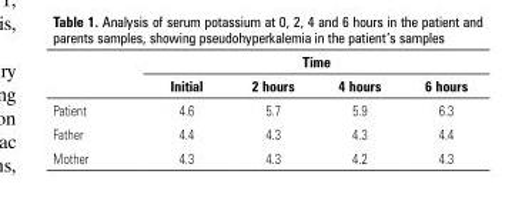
<table><thead><tr><td rowspan="2"></td><td colspan="4">Time</td></tr><tr><td>Initial</td><td>2 hours</td><td>4 hours</td><td>6 hours</td></tr></thead><tbody><tr><td>Patient</td><td>4.6</td><td>5.7</td><td>5.9</td><td>6.3</td></tr><tr><td>Father</td><td>4.4</td><td>4.3</td><td>4.3</td><td>4.4</td></tr><tr><td>Mother</td><td>4.3</td><td>4.3</td><td>4.2</td><td>4.3</td></tr></tbody></table>